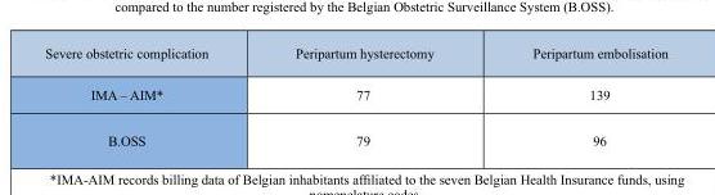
<table><thead><tr><td>Severe obstetric complication</td><td>Peripartum hysterectomy</td><td>Peripartum embolisation</td></tr></thead><tbody><tr><td>IMA – AIM*</td><td>77</td><td>139</td></tr><tr><td>B.OSS</td><td>79</td><td>96</td></tr></tbody></table>